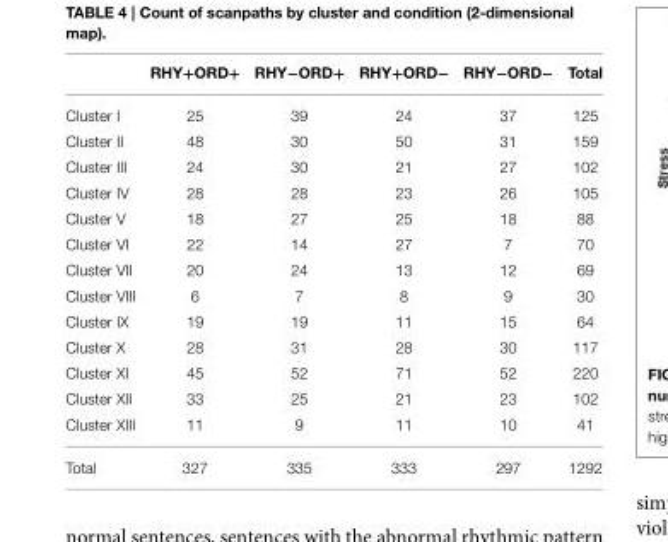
<table><thead><tr><td></td><td>RHY+ORD+</td><td>RHY−ORD+</td><td>RHY+ORD−</td><td>RHY−ORD−</td><td>Total</td></tr></thead><tbody><tr><td>Cluster I</td><td>25</td><td>39</td><td>24</td><td>37</td><td>125</td></tr><tr><td>Cluster II</td><td>48</td><td>30</td><td>50</td><td>31</td><td>159</td></tr><tr><td>Cluster III</td><td>24</td><td>30</td><td>21</td><td>27</td><td>102</td></tr><tr><td>Cluster IV</td><td>28</td><td>28</td><td>23</td><td>26</td><td>105</td></tr><tr><td>Cluster V</td><td>18</td><td>27</td><td>25</td><td>18</td><td>88</td></tr><tr><td>Cluster VI</td><td>22</td><td>14</td><td>27</td><td>7</td><td>70</td></tr><tr><td>Cluster VII</td><td>20</td><td>24</td><td>13</td><td>12</td><td>69</td></tr><tr><td>Cluster VIII</td><td>6</td><td>7</td><td>8</td><td>9</td><td>30</td></tr><tr><td>Cluster IX</td><td>19</td><td>19</td><td>11</td><td>15</td><td>64</td></tr><tr><td>Cluster X</td><td>28</td><td>31</td><td>28</td><td>30</td><td>117</td></tr><tr><td>Cluster XI</td><td>45</td><td>52</td><td>71</td><td>52</td><td>220</td></tr><tr><td>Cluster XII</td><td>33</td><td>25</td><td>21</td><td>23</td><td>102</td></tr><tr><td>Cluster XIII</td><td>11</td><td>9</td><td>11</td><td>10</td><td>41</td></tr><tr><td>Total</td><td>327</td><td>335</td><td>333</td><td>297</td><td>1292</td></tr></tbody></table>